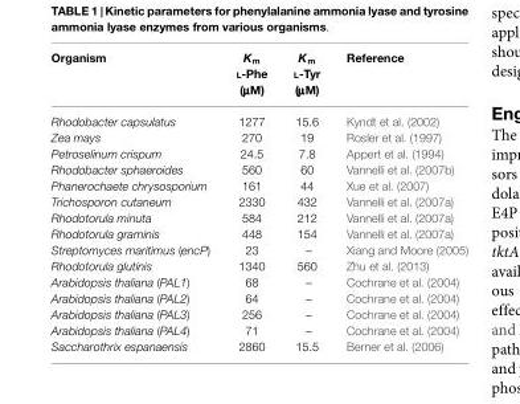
<table><thead><tr><td>Organism</td><td>Km L-Phe (µµµM)</td><td>Km L-Tyr (µµµM)</td><td>Reference</td></tr></thead><tbody><tr><td>Rhodobacter capsulatus</td><td>1277</td><td>15.6</td><td>Kyndt et al. (2002)</td></tr><tr><td>Zea mays</td><td>270</td><td>19</td><td>Rosler et al. (1997)</td></tr><tr><td>Petroselinum crispum</td><td>24.5</td><td>7.8</td><td>Appert et al. (1994)</td></tr><tr><td>Rhodobacter sphaeroides</td><td>560</td><td>60</td><td>Vannelli et al. (2007b)</td></tr><tr><td>Phanerochaete chrysosporium</td><td>161</td><td>44</td><td>Xue et al. (2007)</td></tr><tr><td>Trichosporon cutaneum</td><td>2330</td><td>432</td><td>Vannelli et al. (2007a)</td></tr><tr><td>Rhodotorula minuta</td><td>584</td><td>212</td><td>Vannelli et al. (2007a)</td></tr><tr><td>Rhodotorula graminis</td><td>448</td><td>154</td><td>Vannelli et al. (2007a)</td></tr><tr><td>Streptomyces maritimus (encP)</td><td>23</td><td>–</td><td>Xiang and Moore (2005)</td></tr><tr><td>Rhodotorula glutinis</td><td>1340</td><td>560</td><td>Zhu et al. (2013)</td></tr><tr><td>Arabidopsis thaliana (PAL1)</td><td>68</td><td>–</td><td>Cochrane et al. (2004)</td></tr><tr><td>Arabidopsis thaliana (PAL2)</td><td>64</td><td>–</td><td>Cochrane et al. (2004)</td></tr><tr><td>Arabidopsis thaliana (PAL3)</td><td>256</td><td>–</td><td>Cochrane et al. (2004)</td></tr><tr><td>Arabidopsis thaliana (PAL4)</td><td>71</td><td>–</td><td>Cochrane et al. (2004)</td></tr><tr><td>Saccharothrix espanaensis</td><td>2860</td><td>15.5</td><td>Berner et al. (2006)</td></tr></tbody></table>